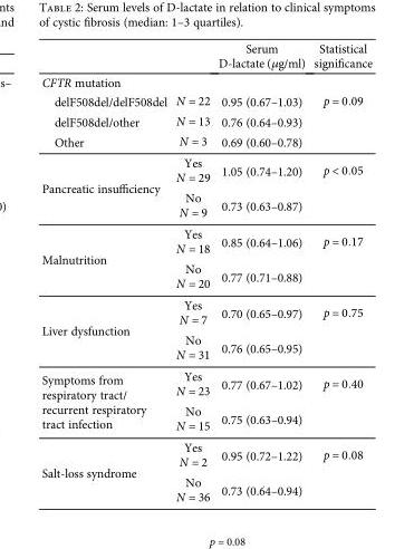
<table><thead><tr><td></td><td></td><td>Serum D-lactate (μg/ml)</td><td>Statistical significance</td></tr></thead><tbody><tr><td colspan="4">CFTR mutation</td></tr><tr><td>delF508del/delF508del</td><td>N = 22</td><td>0.95 (0.67–1.03)</td><td>p = 0 09</td></tr><tr><td>delF508del/other</td><td>N = 13</td><td>0.76 (0.64–0.93)</td><td></td></tr><tr><td>Other</td><td>N = 3</td><td>0.69 (0.60–0.78)</td><td></td></tr><tr><td rowspan="2">Pancreatic insufficiency</td><td>Yes N = 29</td><td>1.05 (0.74–1.20)</td><td>p &lt; 0 05</td></tr><tr><td>No N = 9</td><td>0.73 (0.63–0.87)</td><td></td></tr><tr><td rowspan="2">Malnutrition</td><td>Yes N = 18</td><td>0.85 (0.64–1.06)</td><td>p = 0 17</td></tr><tr><td>No N = 20</td><td>0.77 (0.71–0.88)</td><td></td></tr><tr><td rowspan="2">Liver dysfunction</td><td>Yes N = 7</td><td>0.70 (0.65–0.97)</td><td>p = 0 75</td></tr><tr><td>No N = 31</td><td>0.76 (0.65–0.95)</td><td></td></tr><tr><td rowspan="2">Symptoms from respiratory tract/ recurrent respiratory tract infection</td><td>Yes N = 23</td><td>0.77 (0.67–1.02)</td><td>p = 0 40</td></tr><tr><td>No N = 15</td><td>0.75 (0.63–0.94)</td><td></td></tr><tr><td rowspan="2">Salt-loss syndrome</td><td>Yes N = 2</td><td>0.95 (0.72–1.22)</td><td>p = 0 08</td></tr><tr><td>No N = 36</td><td>0.73 (0.64–0.94)</td><td></td></tr></tbody></table>